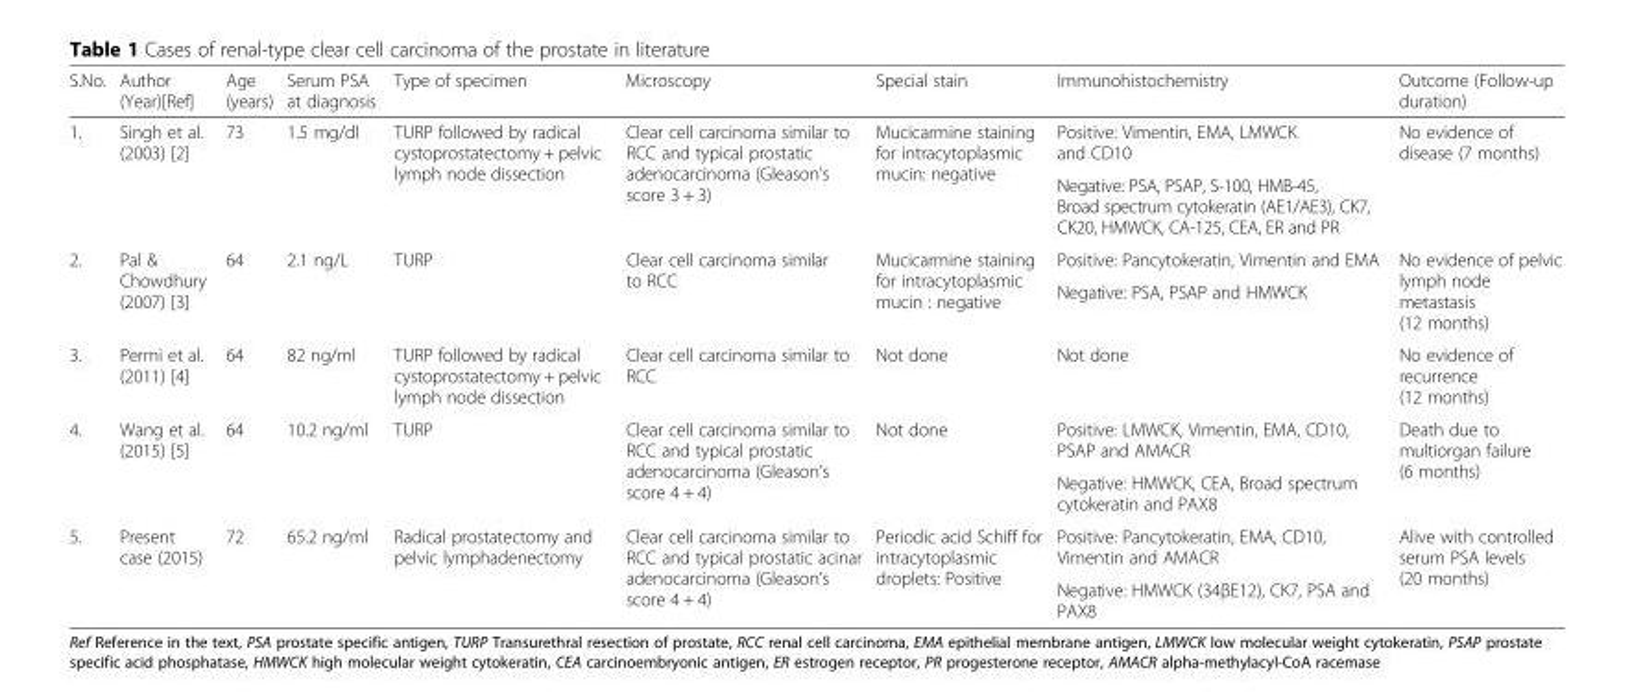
<table><thead><tr><td>S.No.</td><td>Author (Year)[Ref]</td><td>Age (years)</td><td>Serum PSA at diagnosis</td><td>Type of specimen</td><td>Microscopy</td><td>Special stain</td><td>Immunohistochemistry</td><td>Outcome (Follow-up duration)</td></tr></thead><tbody><tr><td rowspan="2">1.</td><td rowspan="2">Singh et al. (2003) [2]</td><td rowspan="2">73</td><td rowspan="2">1.5 mg/dl</td><td rowspan="2">TURP followed by radical cystoprostatectomy + pelvic lymph node dissection</td><td rowspan="2">Clear cell carcinoma similar to RCC and typical prostatic adenocarcinoma (Gleason’s score 3 + 3)</td><td rowspan="2">Mucicarmine staining for intracytoplasmic mucin: negative</td><td>Positive: Vimentin, EMA, LMWCK and CD10</td><td rowspan="2">No evidence of disease (7 months)</td></tr><tr><td>Negative: PSA, PSAP, S-100, HMB-45, Broad spectrum cytokeratin (AE1/AE3), CK7, CK20, HMWCK, CA-125, CEA, ER and PR</td></tr><tr><td rowspan="2">2.</td><td rowspan="2">Pal &amp; Chowdhury (2007) [3]</td><td rowspan="2">64</td><td rowspan="2">2.1 ng/L</td><td rowspan="2">TURP</td><td rowspan="2">Clear cell carcinoma similar to RCC</td><td rowspan="2">Mucicarmine staining for intracytoplasmic mucin : negative</td><td>Positive: Pancytokeratin, Vimentin and EMA</td><td rowspan="2">No evidence of pelvic lymph node metastasis (12 months)</td></tr><tr><td>Negative: PSA, PSAP and HMWCK</td></tr><tr><td>3.</td><td>Permi et al. (2011) [4]</td><td>64</td><td>82 ng/ml</td><td>TURP followed by radical cystoprostatectomy + pelvic lymph node dissection</td><td>Clear cell carcinoma similar to RCC</td><td>Not done</td><td>Not done</td><td>No evidence of recurrence (12 months)</td></tr><tr><td rowspan="2">4.</td><td rowspan="2">Wang et al. (2015) [5]</td><td rowspan="2">64</td><td rowspan="2">10.2 ng/ml</td><td rowspan="2">TURP</td><td rowspan="2">Clear cell carcinoma similar to RCC and typical prostatic adenocarcinoma (Gleason’s score 4 + 4)</td><td rowspan="2">Not done</td><td>Positive: LMWCK, Vimentin, EMA, CD10, PSAP and AMACR</td><td rowspan="2">Death due to multiorgan failure (6 months)</td></tr><tr><td>Negative: HMWCK, CEA, Broad spectrum cytokeratin and PAX8</td></tr><tr><td rowspan="2">5.</td><td rowspan="2">Present case (2015)</td><td rowspan="2">72</td><td rowspan="2">65.2 ng/ml</td><td rowspan="2">Radical prostatectomy and pelvic lymphadenectomy</td><td rowspan="2">Clear cell carcinoma similar to RCC and typical prostatic acinar adenocarcinoma (Gleason’s score 4 + 4)</td><td rowspan="2">Periodic acid Schiff for intracytoplasmic droplets: Positive</td><td>Positive: Pancytokeratin, EMA, CD10, Vimentin and AMACR</td><td rowspan="2">Alive with controlled serum PSA levels (20 months)</td></tr><tr><td>Negative: HMWCK (34βE12), CK7, PSA and PAX8</td></tr></tbody></table>